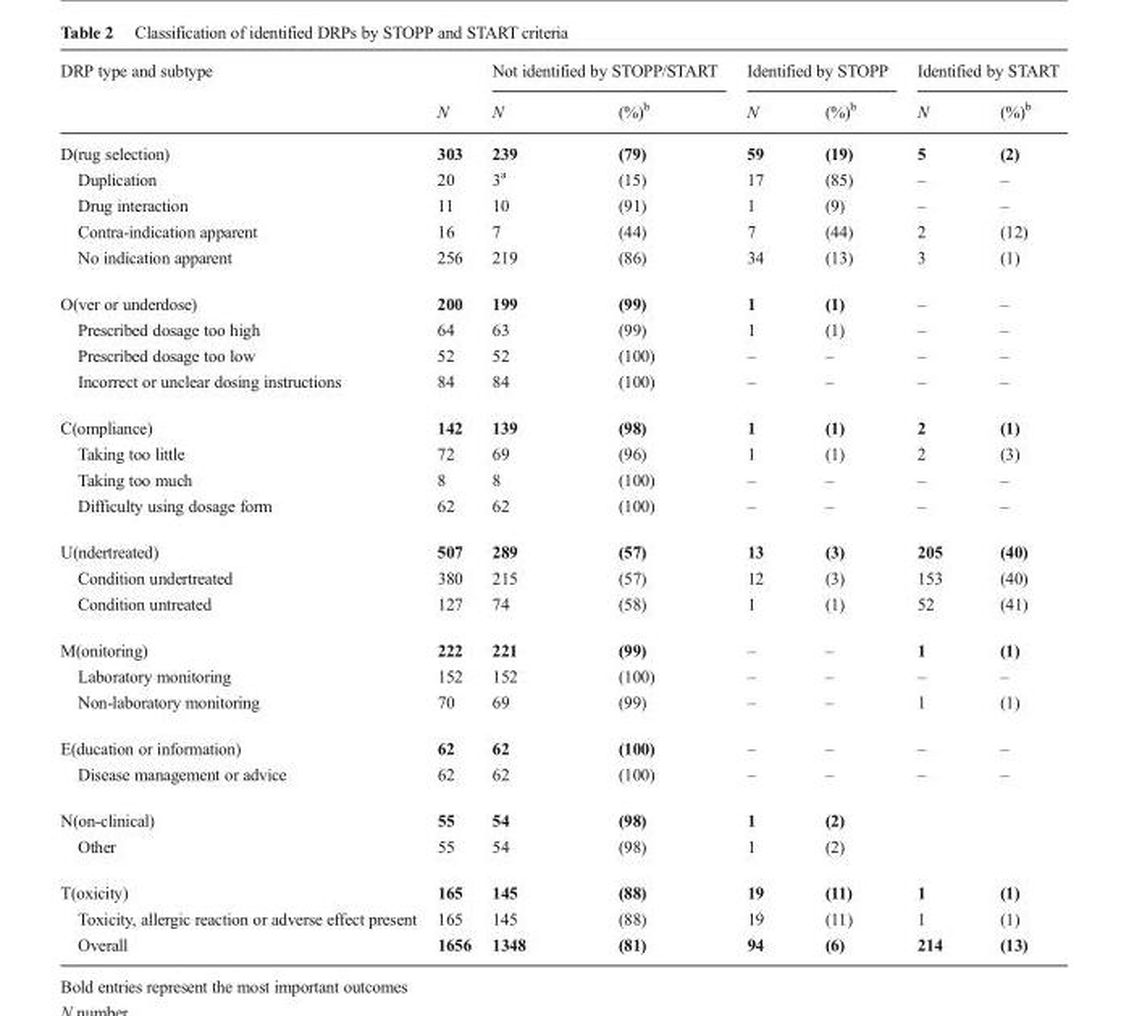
<table><thead><tr><td rowspan="2">DRP type and subtype</td><td rowspan="2">N</td><td colspan="2">Not identified by STOPP/START</td><td colspan="2">Identified by STOPP</td><td colspan="2">Identified by START</td></tr><tr><td>N</td><td>(%)<sup>b</sup></td><td>N</td><td>(%)<sup>b</sup></td><td>N</td><td>(%)<sup>b</sup></td></tr></thead><tbody><tr><td>D(rug selection)</td><td>303</td><td>239</td><td>(79)</td><td>59</td><td>(19)</td><td>5</td><td>(2)</td></tr><tr><td>Duplication</td><td>20</td><td>3<sup>a</sup></td><td>(15)</td><td>17</td><td>(85)</td><td>–</td><td>–</td></tr><tr><td>Drug interaction</td><td>11</td><td>10</td><td>(91)</td><td>1</td><td>(9)</td><td>–</td><td>–</td></tr><tr><td>Contra-indication apparent</td><td>16</td><td>7</td><td>(44)</td><td>7</td><td>(44)</td><td>2</td><td>(12)</td></tr><tr><td>No indication apparent</td><td>256</td><td>219</td><td>(86)</td><td>34</td><td>(13)</td><td>3</td><td>(1)</td></tr><tr><td>O(ver or underdose)</td><td>200</td><td>199</td><td>(99)</td><td>1</td><td>(1)</td><td>–</td><td>–</td></tr><tr><td>Prescribed dosage too high</td><td>64</td><td>63</td><td>(99)</td><td>1</td><td>(1)</td><td>–</td><td>–</td></tr><tr><td>Prescribed dosage too low</td><td>52</td><td>52</td><td>(100)</td><td>–</td><td>–</td><td>–</td><td>–</td></tr><tr><td>Incorrect or unclear dosing instructions</td><td>84</td><td>84</td><td>(100)</td><td>–</td><td>–</td><td>–</td><td>–</td></tr><tr><td>C(ompliance)</td><td>142</td><td>139</td><td>(98)</td><td>1</td><td>(1)</td><td>2</td><td>(1)</td></tr><tr><td>Taking too little</td><td>72</td><td>69</td><td>(96)</td><td>1</td><td>(1)</td><td>2</td><td>(3)</td></tr><tr><td>Taking too much</td><td>8</td><td>8</td><td>(100)</td><td>–</td><td>–</td><td>–</td><td>–</td></tr><tr><td>Difficulty using dosage form</td><td>62</td><td>62</td><td>(100)</td><td>–</td><td>–</td><td>–</td><td>–</td></tr><tr><td>U(ndertreated)</td><td>507</td><td>289</td><td>(57)</td><td>13</td><td>(3)</td><td>205</td><td>(40)</td></tr><tr><td>Condition undertreated</td><td>380</td><td>215</td><td>(57)</td><td>12</td><td>(3)</td><td>153</td><td>(40)</td></tr><tr><td>Condition untreated</td><td>127</td><td>74</td><td>(58)</td><td>1</td><td>(1)</td><td>52</td><td>(41)</td></tr><tr><td>M(onitoring)</td><td>222</td><td>221</td><td>(99)</td><td>–</td><td>–</td><td>1</td><td>(1)</td></tr><tr><td>Laboratory monitoring</td><td>152</td><td>152</td><td>(100)</td><td>–</td><td>–</td><td>–</td><td>–</td></tr><tr><td>Non-laboratory monitoring</td><td>70</td><td>69</td><td>(99)</td><td>–</td><td>–</td><td>1</td><td>(1)</td></tr><tr><td>E(ducation or information)</td><td>62</td><td>62</td><td>(100)</td><td>–</td><td>–</td><td>–</td><td>–</td></tr><tr><td>Disease management or advice</td><td>62</td><td>62</td><td>(100)</td><td>–</td><td>–</td><td>–</td><td>–</td></tr><tr><td>N(on-clinical)</td><td>55</td><td>54</td><td>(98)</td><td>1</td><td>(2)</td><td></td><td></td></tr><tr><td>Other</td><td>55</td><td>54</td><td>(98)</td><td>1</td><td>(2)</td><td></td><td></td></tr><tr><td>T(oxicity)</td><td>165</td><td>145</td><td>(88)</td><td>19</td><td>(11)</td><td>1</td><td>(1)</td></tr><tr><td>Toxicity, allergic reaction or adverse effect present</td><td>165</td><td>145</td><td>(88)</td><td>19</td><td>(11)</td><td>1</td><td>(1)</td></tr><tr><td>Overall</td><td>1656</td><td>1348</td><td>(81)</td><td>94</td><td>(6)</td><td>214</td><td>(13)</td></tr></tbody></table>